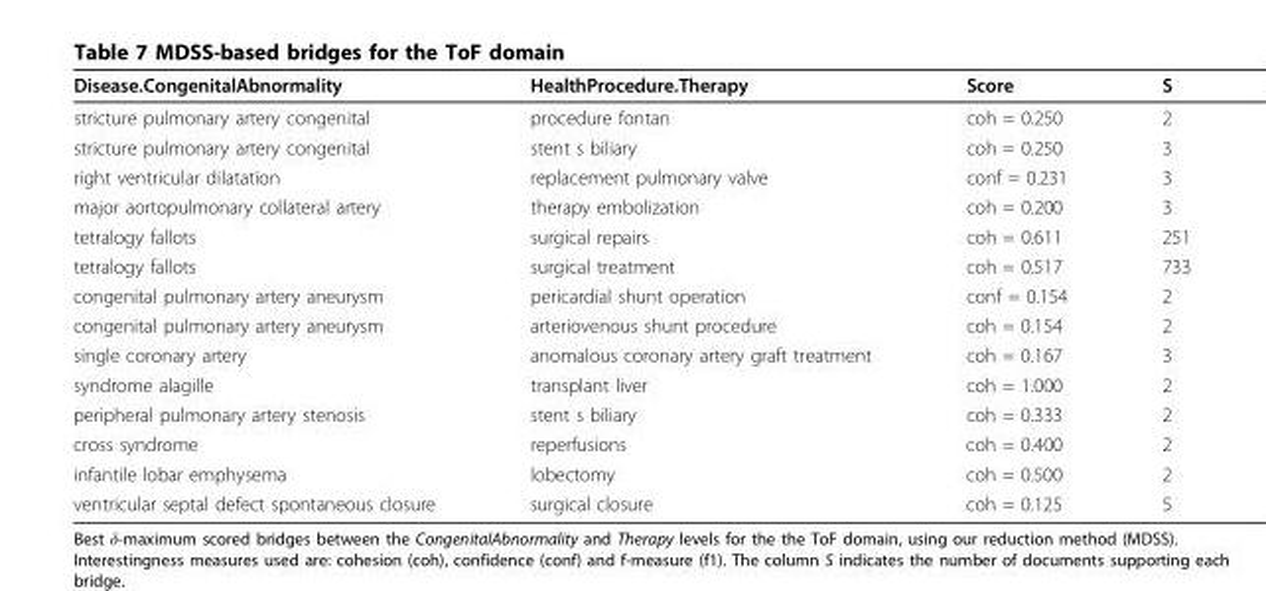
<table><thead><tr><td>Disease.CongenitalAbnormality</td><td>HealthProcedure.Therapy</td><td>Score</td><td>S</td></tr></thead><tbody><tr><td>stricture pulmonary artery congenital</td><td>procedure fontan</td><td>coh = 0.250</td><td>2</td></tr><tr><td>stricture pulmonary artery congenital</td><td>stent s biliary</td><td>coh = 0.250</td><td>3</td></tr><tr><td>right ventricular dilatation</td><td>replacement pulmonary valve</td><td>conf = 0.231</td><td>3</td></tr><tr><td>major aortopulmonary collateral artery</td><td>therapy embolization</td><td>coh = 0.200</td><td>3</td></tr><tr><td>tetralogy fallots</td><td>surgical repairs</td><td>coh = 0.611</td><td>251</td></tr><tr><td>tetralogy fallots</td><td>surgical treatment</td><td>coh = 0.517</td><td>733</td></tr><tr><td>congenital pulmonary artery aneurysm</td><td>pericardial shunt operation</td><td>conf = 0.154</td><td>2</td></tr><tr><td>congenital pulmonary artery aneurysm</td><td>arteriovenous shunt procedure</td><td>coh = 0.154</td><td>2</td></tr><tr><td>single coronary artery</td><td>anomalous coronary artery graft treatment</td><td>coh = 0.167</td><td>3</td></tr><tr><td>syndrome alagille</td><td>transplant liver</td><td>coh = 1.000</td><td>2</td></tr><tr><td>peripheral pulmonary artery stenosis</td><td>stent s biliary</td><td>coh = 0.333</td><td>2</td></tr><tr><td>cross syndrome</td><td>reperfusions</td><td>coh = 0.400</td><td>2</td></tr><tr><td>infantile lobar emphysema</td><td>lobectomy</td><td>coh = 0.500</td><td>2</td></tr><tr><td>ventricular septal defect spontaneous closure</td><td>surgical closure</td><td>coh = 0.125</td><td>5</td></tr></tbody></table>